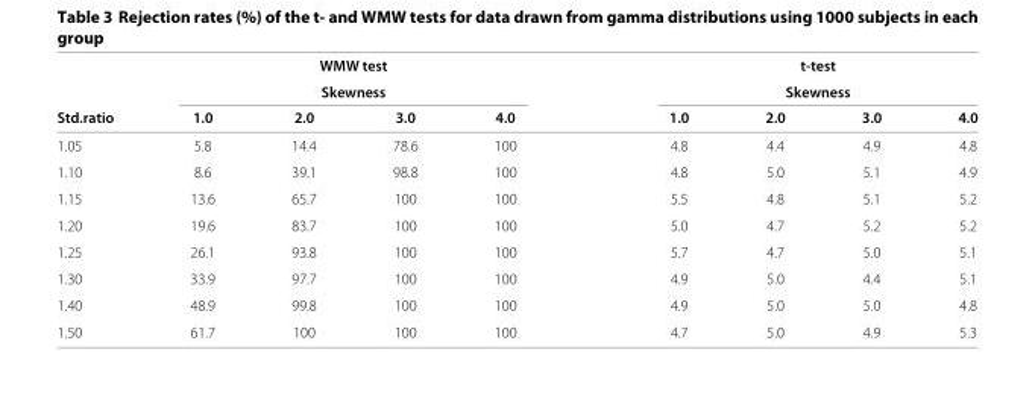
<table><thead><tr><td rowspan="3">Std.ratio</td><td rowspan="2" colspan="4">WMW test Skewness</td><td rowspan="2" colspan="4">t-test Skewness</td></tr><tr></tr><tr><td>1.0</td><td>2.0</td><td>3.0</td><td>4.0</td><td>1.0</td><td>2.0</td><td>3.0</td><td>4.0</td></tr></thead><tbody><tr><td>1.05</td><td>5.8</td><td>14.4</td><td>78.6</td><td>100</td><td>4.8</td><td>4.4</td><td>4.9</td><td>4.8</td></tr><tr><td>1.10</td><td>8.6</td><td>39.1</td><td>98.8</td><td>100</td><td>4.8</td><td>5.0</td><td>5.1</td><td>4.9</td></tr><tr><td>1.15</td><td>13.6</td><td>65.7</td><td>100</td><td>100</td><td>5.5</td><td>4.8</td><td>5.1</td><td>5.2</td></tr><tr><td>1.20</td><td>19.6</td><td>83.7</td><td>100</td><td>100</td><td>5.0</td><td>4.7</td><td>5.2</td><td>5.2</td></tr><tr><td>1.25</td><td>26.1</td><td>93.8</td><td>100</td><td>100</td><td>5.7</td><td>4.7</td><td>5.0</td><td>5.1</td></tr><tr><td>1.30</td><td>33.9</td><td>97.7</td><td>100</td><td>100</td><td>4.9</td><td>5.0</td><td>4.4</td><td>5.1</td></tr><tr><td>1.40</td><td>48.9</td><td>99.8</td><td>100</td><td>100</td><td>4.9</td><td>5.0</td><td>5.0</td><td>4.8</td></tr><tr><td>1.50</td><td>61.7</td><td>100</td><td>100</td><td>100</td><td>4.7</td><td>5.0</td><td>4.9</td><td>5.3</td></tr></tbody></table>